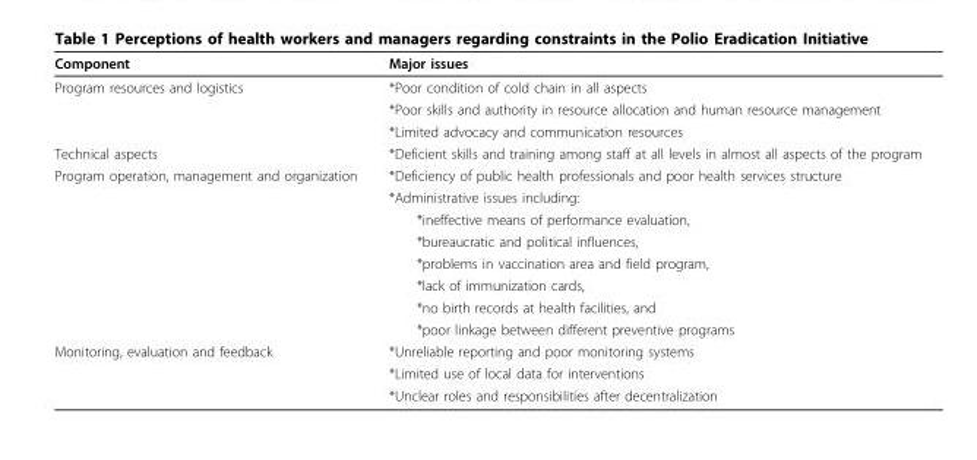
<table><thead><tr><td>Component</td><td>Major issues</td></tr></thead><tbody><tr><td rowspan="3">Program resources and logistics</td><td>*Poor condition of cold chain in all aspects</td></tr><tr><td>*Poor skills and authority in resource allocation and human resource management</td></tr><tr><td>*Limited advocacy and communication resources</td></tr><tr><td>Technical aspects</td><td>*Deficient skills and training among staff at all levels in almost all aspects of the program</td></tr><tr><td rowspan="8">Program operation, management and organization</td><td>*Deficiency of public health professionals and poor health services structure</td></tr><tr><td>*Administrative issues including:</td></tr><tr><td>*ineffective means of performance evaluation,</td></tr><tr><td>*bureaucratic and political influences,</td></tr><tr><td>*problems in vaccination area and field program,</td></tr><tr><td>*lack of immunization cards,</td></tr><tr><td>*no birth records at health facilities, and</td></tr><tr><td>*poor linkage between different preventive programs</td></tr><tr><td rowspan="3">Monitoring, evaluation and feedback</td><td>*Unreliable reporting and poor monitoring systems</td></tr><tr><td>*Limited use of local data for interventions</td></tr><tr><td>*Unclear roles and responsibilities after decentralization</td></tr></tbody></table>